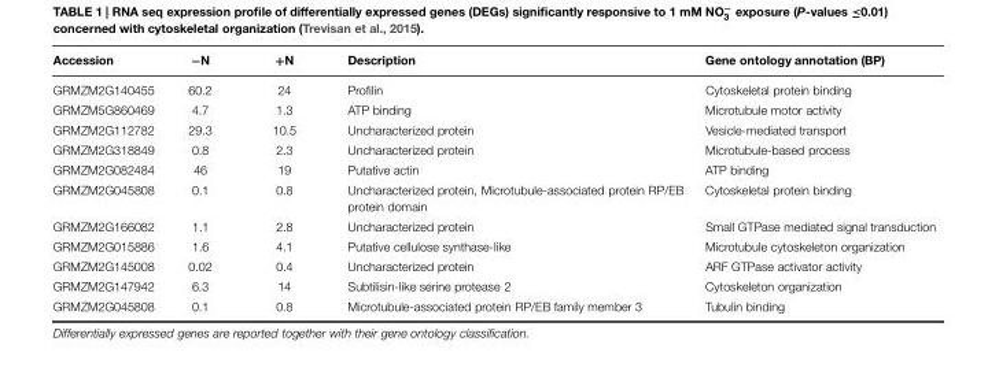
<table><thead><tr><td>Accession</td><td>−N</td><td>+N</td><td>Description</td><td>Gene ontology annotation (BP)</td></tr></thead><tbody><tr><td>GRMZM2G140455</td><td>60.2</td><td>24</td><td>Profilin</td><td>Cytoskeletal protein binding</td></tr><tr><td>GRMZM5G860469</td><td>4.7</td><td>1.3</td><td>ATP binding</td><td>Microtubule motor activity</td></tr><tr><td>GRMZM2G112782</td><td>29.3</td><td>10.5</td><td>Uncharacterized protein</td><td>Vesicle-mediated transport</td></tr><tr><td>GRMZM2G318849</td><td>0.8</td><td>2.3</td><td>Uncharacterized protein</td><td>Microtubule-based process</td></tr><tr><td>GRMZM2G082484</td><td>46</td><td>19</td><td>Putative actin</td><td>ATP binding</td></tr><tr><td>GRMZM2G045808</td><td>0.1</td><td>0.8</td><td>Uncharacterized protein, Microtubule-associated protein RP/EB protein domain</td><td>Cytoskeletal protein binding</td></tr><tr><td>GRMZM2G166082</td><td>1.1</td><td>2.8</td><td>Uncharacterized protein</td><td>Small GTPase mediated signal transduction</td></tr><tr><td>GRMZM2G015886</td><td>1.6</td><td>4.1</td><td>Putative cellulose synthase-like</td><td>Microtubule cytoskeleton organization</td></tr><tr><td>GRMZM2G145008</td><td>0.02</td><td>0.4</td><td>Uncharacterized protein</td><td>ARF GTPase activator activity</td></tr><tr><td>GRMZM2G147942</td><td>6.3</td><td>14</td><td>Subtilisin-like serine protease 2</td><td>Cytoskeleton organization</td></tr><tr><td>GRMZM2G045808</td><td>0.1</td><td>0.8</td><td>Microtubule-associated protein RP/EB family member 3</td><td>Tubulin binding</td></tr></tbody></table>